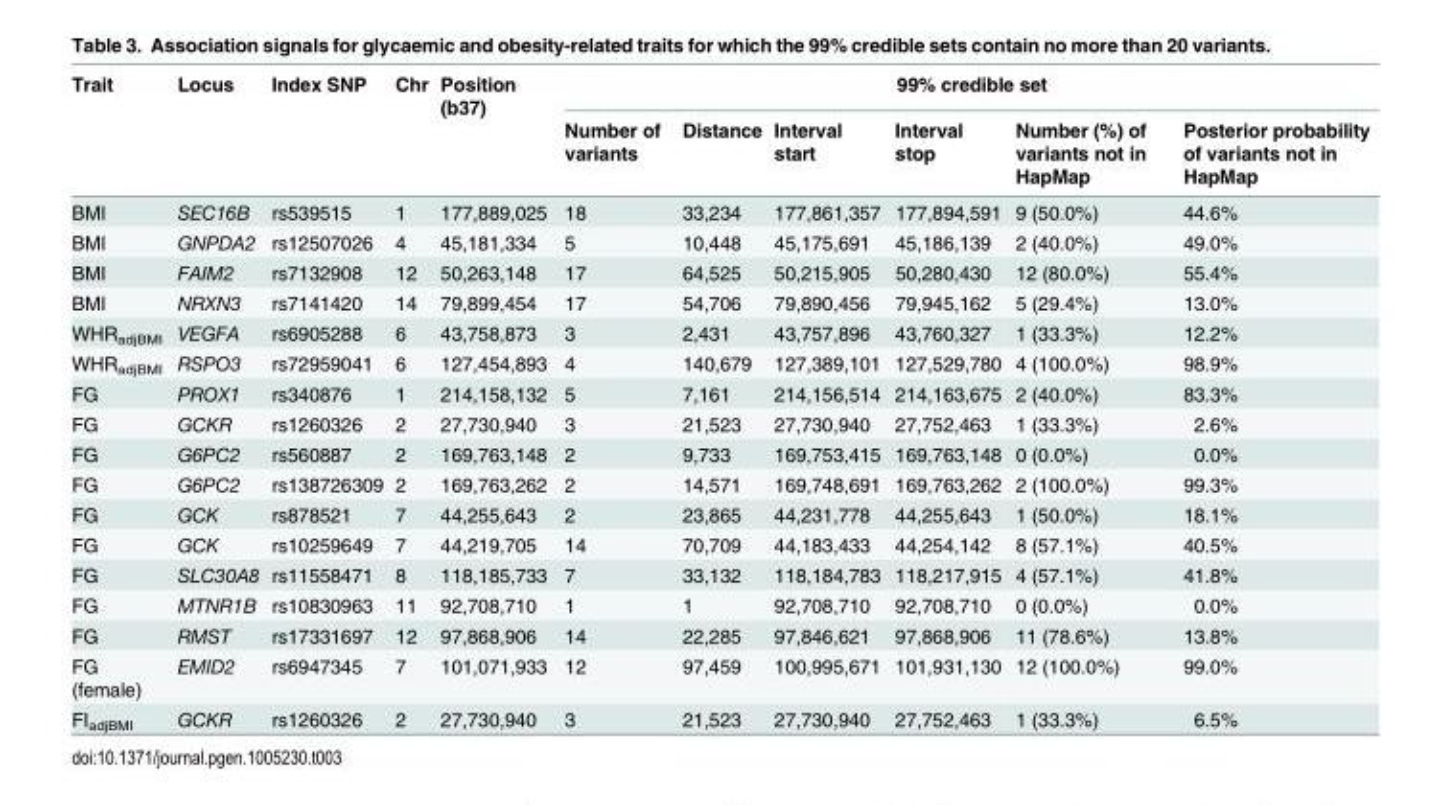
<table><thead><tr><td rowspan="2">Trait</td><td rowspan="2">Locus</td><td rowspan="2">Index SNP</td><td rowspan="2">Chr</td><td rowspan="2">Position (b37)</td><td colspan="6">99% credible set</td></tr><tr><td>Number of variants</td><td>Distance</td><td>Interval start</td><td>Interval stop</td><td>Number (%) of variants not in HapMap</td><td>Posterior probability of variants not in HapMap</td></tr></thead><tbody><tr><td>BMI</td><td>SEC16B</td><td>rs539515</td><td>1</td><td>177,889,025</td><td>18</td><td>33,234</td><td>177,861,357</td><td>177,894,591</td><td>9 (50.0%)</td><td>44.6%</td></tr><tr><td>BMI</td><td>GNPDA2</td><td>rs12507026</td><td>4</td><td>45,181,334</td><td>5</td><td>10,448</td><td>45,175,691</td><td>45,186,139</td><td>2 (40.0%)</td><td>49.0%</td></tr><tr><td>BMI</td><td>FAIM2</td><td>rs7132908</td><td>12</td><td>50,263,148</td><td>17</td><td>64,525</td><td>50,215,905</td><td>50,280,430</td><td>12 (80.0%)</td><td>55.4%</td></tr><tr><td>BMI</td><td>NRXN3</td><td>rs7141420</td><td>14</td><td>79,899,454</td><td>17</td><td>54,706</td><td>79,890,456</td><td>79,945,162</td><td>5 (29.4%)</td><td>13.0%</td></tr><tr><td>WHR<sub>adjBMI</sub></td><td>VEGFA</td><td>rs6905288</td><td>6</td><td>43,758,873</td><td>3</td><td>2,431</td><td>43,757,896</td><td>43,760,327</td><td>1 (33.3%)</td><td>12.2%</td></tr><tr><td>WHR<sub>adjBMI</sub></td><td>RSPO3</td><td>rs72959041</td><td>6</td><td>127,454,893</td><td>4</td><td>140,679</td><td>127,389,101</td><td>127,529,780</td><td>4 (100.0%)</td><td>98.9%</td></tr><tr><td>FG</td><td>PROX1</td><td>rs340876</td><td>1</td><td>214,158,132</td><td>5</td><td>7,161</td><td>214,156,514</td><td>214,163,675</td><td>2 (40.0%)</td><td>83.3%</td></tr><tr><td>FG</td><td>GCKR</td><td>rs1260326</td><td>2</td><td>27,730,940</td><td>3</td><td>21,523</td><td>27,730,940</td><td>27,752,463</td><td>1 (33.3%)</td><td>2.6%</td></tr><tr><td>FG</td><td>G6PC2</td><td>rs560887</td><td>2</td><td>169,763,148</td><td>2</td><td>9,733</td><td>169,753,415</td><td>169,763,148</td><td>0 (0.0%)</td><td>0.0%</td></tr><tr><td>FG</td><td>G6PC2</td><td>rs138726309</td><td>2</td><td>169,763,262</td><td>2</td><td>14,571</td><td>169,748,691</td><td>169,763,262</td><td>2 (100.0%)</td><td>99.3%</td></tr><tr><td>FG</td><td>GCK</td><td>rs878521</td><td>7</td><td>44,255,643</td><td>2</td><td>23,865</td><td>44,231,778</td><td>44,255,643</td><td>1 (50.0%)</td><td>18.1%</td></tr><tr><td>FG</td><td>GCK</td><td>rs10259649</td><td>7</td><td>44,219,705</td><td>14</td><td>70,709</td><td>44,183,433</td><td>44,254,142</td><td>8 (57.1%)</td><td>40.5%</td></tr><tr><td>FG</td><td>SLC30A8</td><td>rs11558471</td><td>8</td><td>118,185,733</td><td>7</td><td>33,132</td><td>118,184,783</td><td>118,217,915</td><td>4 (57.1%)</td><td>41.8%</td></tr><tr><td>FG</td><td>MTNR1B</td><td>rs10830963</td><td>11</td><td>92,708,710</td><td>1</td><td>1</td><td>92,708,710</td><td>92,708,710</td><td>0 (0.0%)</td><td>0.0%</td></tr><tr><td>FG</td><td>RMST</td><td>rs17331697</td><td>12</td><td>97,868,906</td><td>14</td><td>22,285</td><td>97,846,621</td><td>97,868,906</td><td>11 (78.6%)</td><td>13.8%</td></tr><tr><td>FG (female)</td><td>EMID2</td><td>rs6947345</td><td>7</td><td>101,071,933</td><td>12</td><td>97,459</td><td>100,995,671</td><td>101,931,130</td><td>12 (100.0%)</td><td>99.0%</td></tr><tr><td>FI<sub>adjBMI</sub></td><td>GCKR</td><td>rs1260326</td><td>2</td><td>27,730,940</td><td>3</td><td>21,523</td><td>27,730,940</td><td>27,752,463</td><td>1 (33.3%)</td><td>6.5%</td></tr></tbody></table>